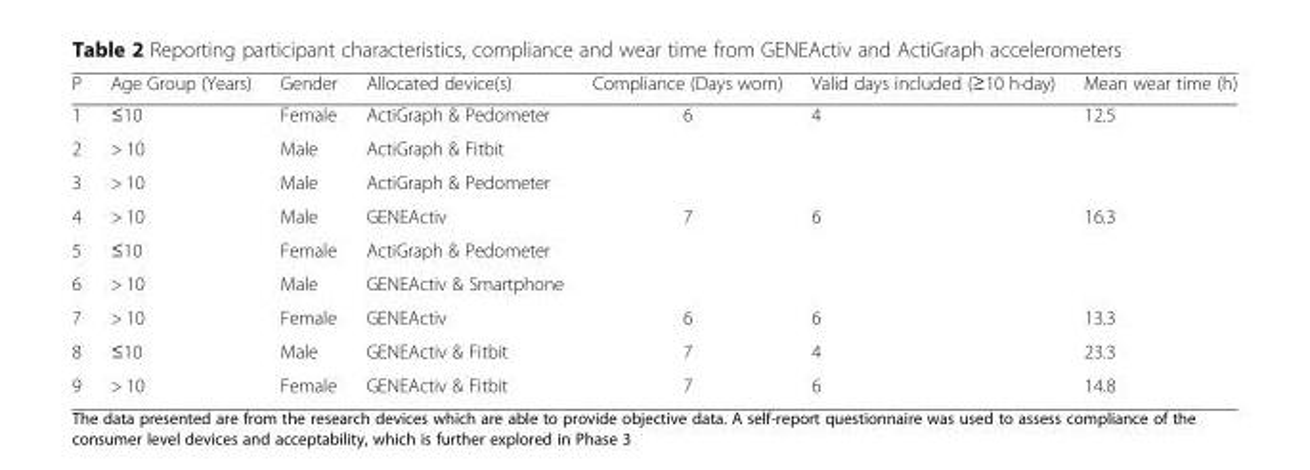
<table><thead><tr><td>P</td><td>Age Group (Years)</td><td>Gender</td><td>Allocated device(s)</td><td>Compliance (Days worn)</td><td>Valid days included (≥10 h·day)</td><td>Mean wear time (h)</td></tr></thead><tbody><tr><td>1</td><td>≤10</td><td>Female</td><td>ActiGraph &amp; Pedometer</td><td>6</td><td>4</td><td>12.5</td></tr><tr><td>2</td><td>&gt; 10</td><td>Male</td><td>ActiGraph &amp; Fitbit</td><td colspan="3"></td></tr><tr><td>3</td><td>&gt; 10</td><td>Male</td><td>ActiGraph &amp; Pedometer</td><td colspan="3"></td></tr><tr><td>4</td><td>&gt; 10</td><td>Male</td><td>GENEActiv</td><td>7</td><td>6</td><td>16.3</td></tr><tr><td>5</td><td>≤10</td><td>Female</td><td>ActiGraph &amp; Pedometer</td><td colspan="3"></td></tr><tr><td>6</td><td>&gt; 10</td><td>Male</td><td>GENEActiv &amp; Smartphone</td><td colspan="3"></td></tr><tr><td>7</td><td>&gt; 10</td><td>Female</td><td>GENEActiv</td><td>6</td><td>6</td><td>13.3</td></tr><tr><td>8</td><td>≤10</td><td>Male</td><td>GENEActiv &amp; Fitbit</td><td>7</td><td>4</td><td>23.3</td></tr><tr><td>9</td><td>&gt; 10</td><td>Female</td><td>GENEActiv &amp; Fitbit</td><td>7</td><td>6</td><td>14.8</td></tr></tbody></table>